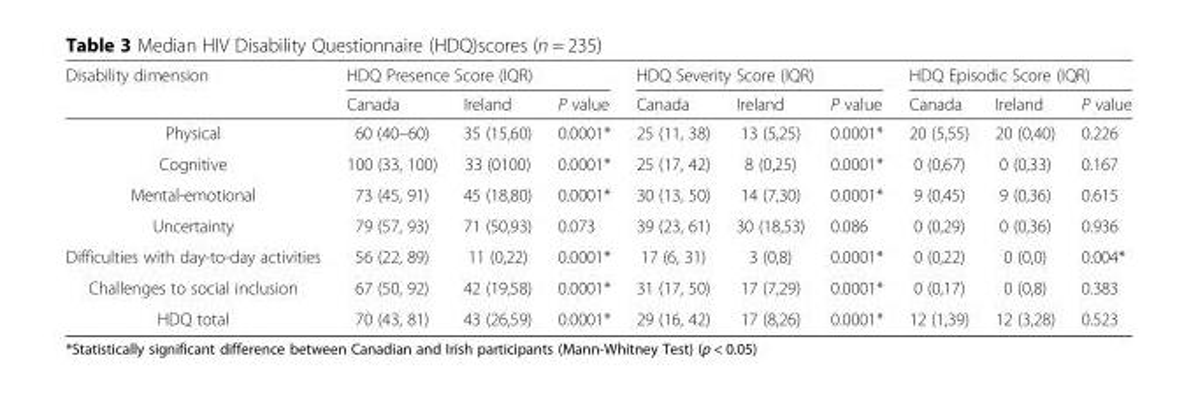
<table><thead><tr><td rowspan="2">Disability dimension</td><td colspan="3">HDQ Presence Score (IQR)</td><td colspan="3">HDQ Severity Score (IQR)</td><td colspan="3">HDQ Episodic Score (IQR)</td></tr><tr><td>Canada</td><td>Ireland</td><td>P value</td><td>Canada</td><td>Ireland</td><td>P value</td><td>Canada</td><td>Ireland</td><td>P value</td></tr></thead><tbody><tr><td>Physical</td><td>60 (40–60)</td><td>35 (15,60)</td><td>0.0001*</td><td>25 (11, 38)</td><td>13 (5,25)</td><td>0.0001*</td><td>20 (5,55)</td><td>20 (0,40)</td><td>0.226</td></tr><tr><td>Cognitive</td><td>100 (33, 100)</td><td>33 (0100)</td><td>0.0001*</td><td>25 (17, 42)</td><td>8 (0,25)</td><td>0.0001*</td><td>0 (0,67)</td><td>0 (0,33)</td><td>0.167</td></tr><tr><td>Mental-emotional</td><td>73 (45, 91)</td><td>45 (18,80)</td><td>0.0001*</td><td>30 (13, 50)</td><td>14 (7,30)</td><td>0.0001*</td><td>9 (0,45)</td><td>9 (0,36)</td><td>0.615</td></tr><tr><td>Uncertainty</td><td>79 (57, 93)</td><td>71 (50,93)</td><td>0.073</td><td>39 (23, 61)</td><td>30 (18,53)</td><td>0.086</td><td>0 (0,29)</td><td>0 (0,36)</td><td>0.936</td></tr><tr><td>Difficulties with day-to-day activities</td><td>56 (22, 89)</td><td>11 (0,22)</td><td>0.0001*</td><td>17 (6, 31)</td><td>3 (0,8)</td><td>0.0001*</td><td>0 (0,22)</td><td>0 (0,0)</td><td>0.004*</td></tr><tr><td>Challenges to social inclusion</td><td>67 (50, 92)</td><td>42 (19,58)</td><td>0.0001*</td><td>31 (17, 50)</td><td>17 (7,29)</td><td>0.0001*</td><td>0 (0,17)</td><td>0 (0,8)</td><td>0.383</td></tr><tr><td>HDQ total</td><td>70 (43, 81)</td><td>43 (26,59)</td><td>0.0001*</td><td>29 (16, 42)</td><td>17 (8,26)</td><td>0.0001*</td><td>12 (1,39)</td><td>12 (3,28)</td><td>0.523</td></tr></tbody></table>